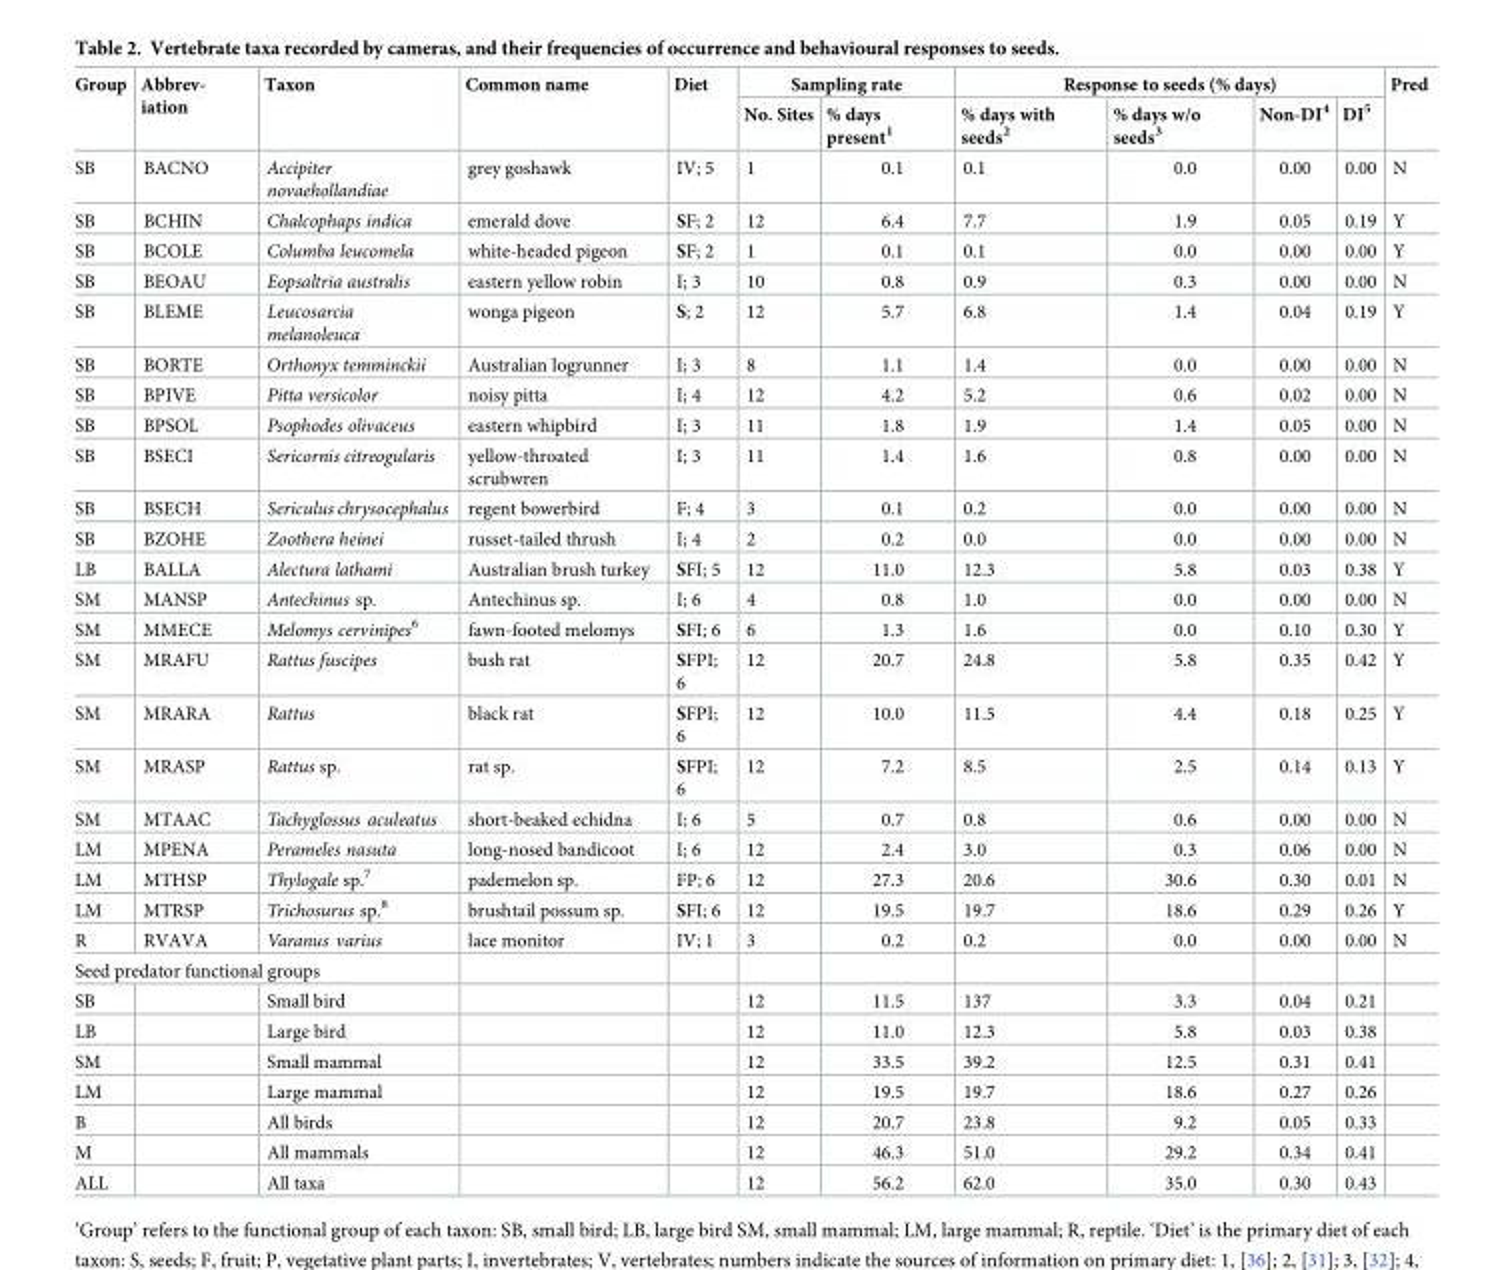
<table><thead><tr><td rowspan="2">Group</td><td rowspan="2">Abbrev- iation</td><td rowspan="2">Taxon</td><td rowspan="2">Common name</td><td rowspan="2">Diet</td><td colspan="2">Sampling rate</td><td colspan="4">Response to seeds (% days)</td><td rowspan="2">Pred</td></tr><tr><td>No. Sites</td><td>% days present<sup>1</sup></td><td>% days with seeds<sup>2</sup></td><td>% days w/o seeds<sup>3</sup></td><td>Non-DI<sup>4</sup></td><td>DI<sup>5</sup></td></tr></thead><tbody><tr><td>SB</td><td>BACNO</td><td>Accipiter novaehollandiae</td><td>grey goshawk</td><td>IV; 5</td><td>1</td><td>0.1</td><td>0.1</td><td>0.0</td><td>0.00</td><td>0.00</td><td>N</td></tr><tr><td>SB</td><td>BCHIN</td><td>Chalcophaps indica</td><td>emerald dove</td><td>SF; 2</td><td>12</td><td>6.4</td><td>7.7</td><td>1.9</td><td>0.05</td><td>0.19</td><td>Y</td></tr><tr><td>SB</td><td>BCOLE</td><td>Columba leucomela</td><td>white-headed pigeon</td><td>SF; 2</td><td>1</td><td>0.1</td><td>0.1</td><td>0.0</td><td>0.00</td><td>0.00</td><td>Y</td></tr><tr><td>SB</td><td>BEOAU</td><td>Eopsaltria australis</td><td>eastern yellow robin</td><td>I; 3</td><td>10</td><td>0.8</td><td>0.9</td><td>0.3</td><td>0.00</td><td>0.00</td><td>N</td></tr><tr><td>SB</td><td>BLEME</td><td>Leucosarcia melanoleuca</td><td>wonga pigeon</td><td>S; 2</td><td>12</td><td>5.7</td><td>6.8</td><td>1.4</td><td>0.04</td><td>0.19</td><td>Y</td></tr><tr><td>SB</td><td>BORTE</td><td>Orthonyx temminckii</td><td>Australian logrunner</td><td>I; 3</td><td>8</td><td>1.1</td><td>1.4</td><td>0.0</td><td>0.00</td><td>0.00</td><td>N</td></tr><tr><td>SB</td><td>BPIVE</td><td>Pitta versicolor</td><td>noisy pitta</td><td>I; 4</td><td>12</td><td>4.2</td><td>5.2</td><td>0.6</td><td>0.02</td><td>0.00</td><td>N</td></tr><tr><td>SB</td><td>BPSOL</td><td>Psophodes olivaceus</td><td>eastern whipbird</td><td>I; 3</td><td>11</td><td>1.8</td><td>1.9</td><td>1.4</td><td>0.05</td><td>0.00</td><td>N</td></tr><tr><td>SB</td><td>BSECI</td><td>Sericornis citreogularis</td><td>yellow-throated scrubwren</td><td>I; 3</td><td>11</td><td>1.4</td><td>1.6</td><td>0.8</td><td>0.00</td><td>0.00</td><td>N</td></tr><tr><td>SB</td><td>BSECH</td><td>Sericulus chrysocephalus</td><td>regent bowerbird</td><td>F; 4</td><td>3</td><td>0.1</td><td>0.2</td><td>0.0</td><td>0.00</td><td>0.00</td><td>N</td></tr><tr><td>SB</td><td>BZOHE</td><td>Zoothera heinei</td><td>russet-tailed thrush</td><td>I; 4</td><td>2</td><td>0.2</td><td>0.0</td><td>0.0</td><td>0.00</td><td>0.00</td><td>N</td></tr><tr><td>LB</td><td>BALLA</td><td>Alectura lathami</td><td>Australian brush turkey</td><td>SFI; 5</td><td>12</td><td>11.0</td><td>12.3</td><td>5.8</td><td>0.03</td><td>0.38</td><td>Y</td></tr><tr><td>SM</td><td>MANSP</td><td>Antechinus sp.</td><td>Antechinus sp.</td><td>I; 6</td><td>4</td><td>0.8</td><td>1.0</td><td>0.0</td><td>0.00</td><td>0.00</td><td>N</td></tr><tr><td>SM</td><td>MMECE</td><td>Melomys cervinipes<sup>6</sup></td><td>fawn-footed melomys</td><td>SFI; 6</td><td>6</td><td>1.3</td><td>1.6</td><td>0.0</td><td>0.10</td><td>0.30</td><td>Y</td></tr><tr><td>SM</td><td>MRAFU</td><td>Rattus fuscipes</td><td>bush rat</td><td>SFPI; 6</td><td>12</td><td>20.7</td><td>24.8</td><td>5.8</td><td>0.35</td><td>0.42</td><td>Y</td></tr><tr><td>SM</td><td>MRARA</td><td>Rattus</td><td>black rat</td><td>SFPI; 6</td><td>12</td><td>10.0</td><td>11.5</td><td>4.4</td><td>0.18</td><td>0.25</td><td>Y</td></tr><tr><td>SM</td><td>MRASP</td><td>Rattus sp.</td><td>rat sp.</td><td>SFPI; 6</td><td>12</td><td>7.2</td><td>8.5</td><td>2.5</td><td>0.14</td><td>0.13</td><td>Y</td></tr><tr><td>SM</td><td>MTAAC</td><td>Tachyglossus aculeatus</td><td>short-beaked echidna</td><td>I; 6</td><td>5</td><td>0.7</td><td>0.8</td><td>0.6</td><td>0.00</td><td>0.00</td><td>N</td></tr><tr><td>LM</td><td>MPENA</td><td>Perameles nasuta</td><td>long-nosed bandicoot</td><td>I; 6</td><td>12</td><td>2.4</td><td>3.0</td><td>0.3</td><td>0.06</td><td>0.00</td><td>N</td></tr><tr><td>LM</td><td>MTHSP</td><td>Thylogale sp.<sup>7</sup></td><td>pademelon sp.</td><td>FP; 6</td><td>12</td><td>27.3</td><td>20.6</td><td>30.6</td><td>0.30</td><td>0.01</td><td>N</td></tr><tr><td>LM</td><td>MTRSP</td><td>Trichosurus sp.<sup>8</sup></td><td>brushtail possum sp.</td><td>SFI; 6</td><td>12</td><td>19.5</td><td>19.7</td><td>18.6</td><td>0.29</td><td>0.26</td><td>Y</td></tr><tr><td>R</td><td>RVAVA</td><td>Varanus varius</td><td>lace monitor</td><td>IV; 1</td><td>3</td><td>0.2</td><td>0.2</td><td>0.0</td><td>0.00</td><td>0.00</td><td>N</td></tr><tr><td colspan="12">Seed predator functional groups</td></tr><tr><td>SB</td><td></td><td>Small bird</td><td></td><td></td><td>12</td><td>11.5</td><td>137</td><td>3.3</td><td>0.04</td><td>0.21</td><td></td></tr><tr><td>LB</td><td></td><td>Large bird</td><td></td><td></td><td>12</td><td>11.0</td><td>12.3</td><td>5.8</td><td>0.03</td><td>0.38</td><td></td></tr><tr><td>SM</td><td></td><td>Small mammal</td><td></td><td></td><td>12</td><td>33.5</td><td>39.2</td><td>12.5</td><td>0.31</td><td>0.41</td><td></td></tr><tr><td>LM</td><td></td><td>Large mammal</td><td></td><td></td><td>12</td><td>19.5</td><td>19.7</td><td>18.6</td><td>0.27</td><td>0.26</td><td></td></tr><tr><td>B</td><td></td><td>All birds</td><td></td><td></td><td>12</td><td>20.7</td><td>23.8</td><td>9.2</td><td>0.05</td><td>0.33</td><td></td></tr><tr><td>M</td><td></td><td>All mammals</td><td></td><td></td><td>12</td><td>46.3</td><td>51.0</td><td>29.2</td><td>0.34</td><td>0.41</td><td></td></tr><tr><td>ALL</td><td></td><td>All taxa</td><td></td><td></td><td>12</td><td>56.2</td><td>62.0</td><td>35.0</td><td>0.30</td><td>0.43</td><td></td></tr></tbody></table>